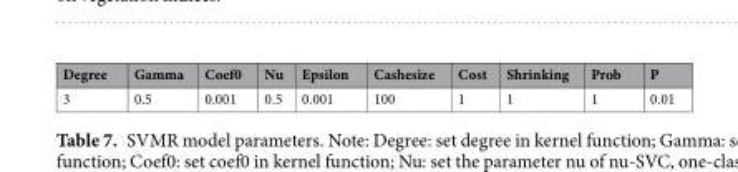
<table><thead><tr><td>Degree</td><td>Gamma</td><td>Coef0</td><td>Nu</td><td>Epsilon</td><td>Cashesize</td><td>Cost</td><td>Shrinking</td><td>Prob</td><td>P</td></tr></thead><tbody><tr><td>3</td><td>0.5</td><td>0.001</td><td>0.5</td><td>0.001</td><td>100</td><td>1</td><td>1</td><td>1</td><td>0.01</td></tr></tbody></table>